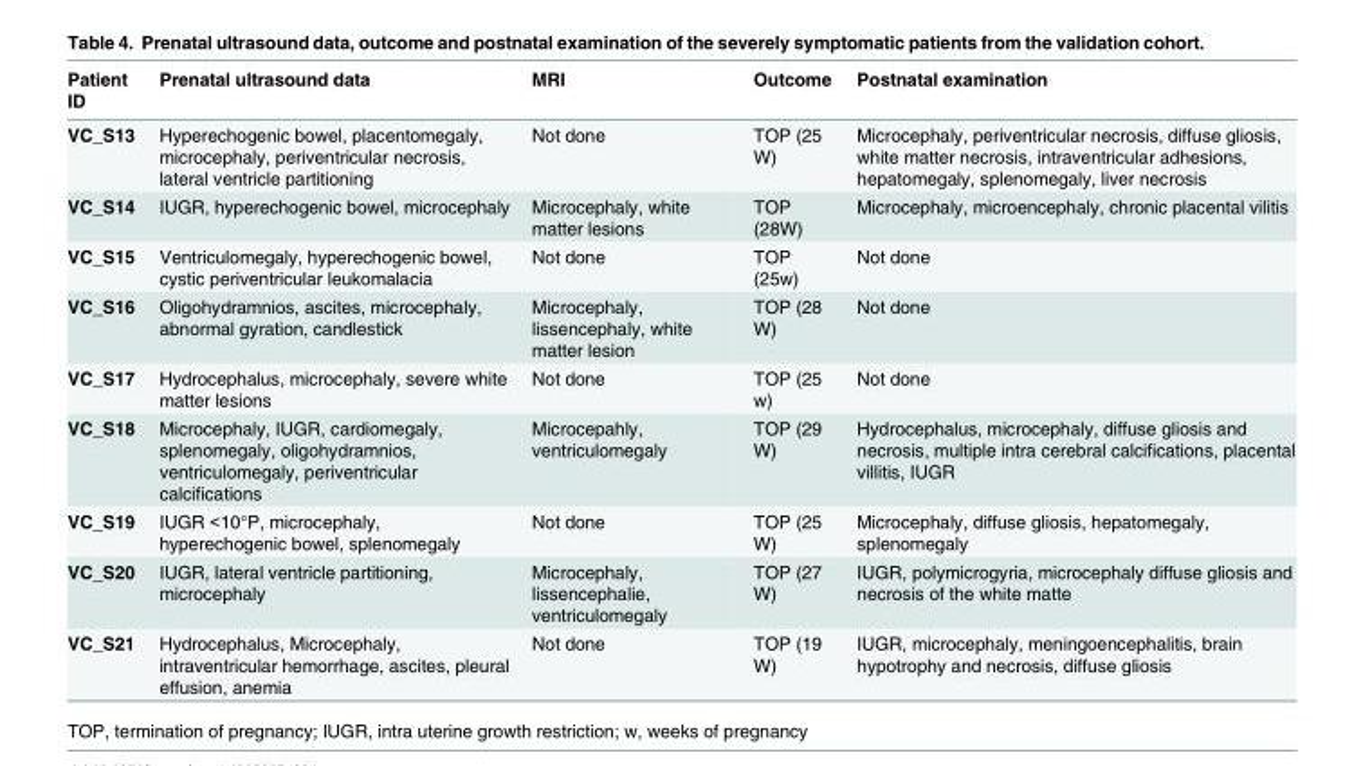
<table><thead><tr><td>Patient ID</td><td>Prenatal ultrasound data</td><td>MRI</td><td>Outcome</td><td>Postnatal examination</td></tr></thead><tbody><tr><td>VC_S13</td><td>Hyperechogenic bowel, placentomegaly, microcephaly, periventricular necrosis, lateral ventricle partitioning</td><td>Not done</td><td>TOP (25 W)</td><td>Microcephaly, periventricular necrosis, diffuse gliosis, white matter necrosis, intraventricular adhesions, hepatomegaly, splenomegaly, liver necrosis</td></tr><tr><td>VC_S14</td><td>IUGR, hyperechogenic bowel, microcephaly</td><td>Microcephaly, white matter lesions</td><td>TOP (28W)</td><td>Microcephaly, microencephaly, chronic placental vilitis</td></tr><tr><td>VC_S15</td><td>Ventriculomegaly, hyperechogenic bowel, cystic periventricular leukomalacia</td><td>Not done</td><td>TOP (25w)</td><td>Not done</td></tr><tr><td>VC_S16</td><td>Oligohydramnios, ascites, microcephaly, abnormal gyration, candlestick</td><td>Microcephaly, lissencephaly, white matter lesion</td><td>TOP (28 W)</td><td>Not done</td></tr><tr><td>VC_S17</td><td>Hydrocephalus, microcephaly, severe white matter lesions</td><td>Not done</td><td>TOP (25 w)</td><td>Not done</td></tr><tr><td>VC_S18</td><td>Microcephaly, IUGR, cardiomegaly, splenomegaly, oligohydramnios, ventriculomegaly, periventricular calcifications</td><td>Microcepahly, ventriculomegaly</td><td>TOP (29 W)</td><td>Hydrocephalus, microcephaly, diffuse gliosis and necrosis, multiple intra cerebral calcifications, placental villitis, IUGR</td></tr><tr><td>VC_S19</td><td>IUGR &lt;10°P, microcephaly, hyperechogenic bowel, splenomegaly</td><td>Not done</td><td>TOP (25 W)</td><td>Microcephaly, diffuse gliosis, hepatomegaly, splenomegaly</td></tr><tr><td>VC_S20</td><td>IUGR, lateral ventricle partitioning, microcephaly</td><td>Microcephaly, lissencephalie, ventriculomegaly</td><td>TOP (27 W)</td><td>IUGR, polymicrogyria, microcephaly diffuse gliosis and necrosis of the white matte</td></tr><tr><td>VC_S21</td><td>Hydrocephalus, Microcephaly, intraventricular hemorrhage, ascites, pleural effusion, anemia</td><td>Not done</td><td>TOP (19 W)</td><td>IUGR, microcephaly, meningoencephalitis, brain hypotrophy and necrosis, diffuse gliosis</td></tr></tbody></table>